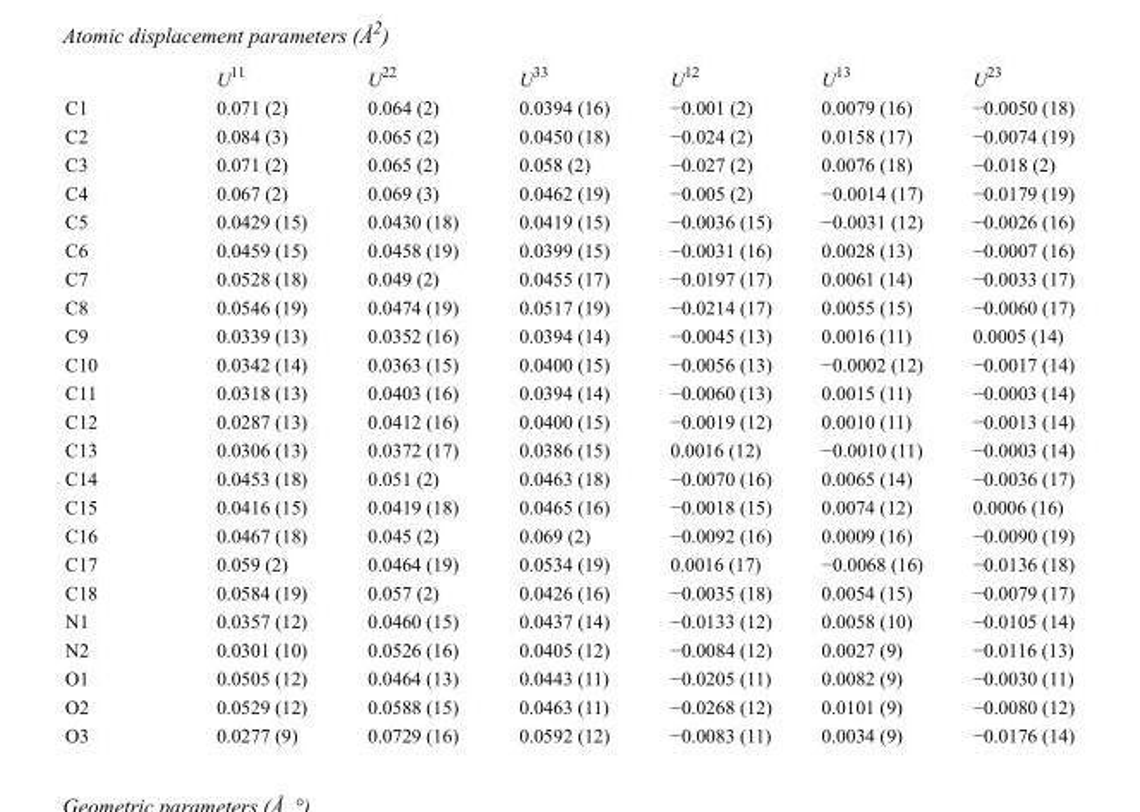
<table><thead><tr><td></td><td>U<sup>11</sup></td><td>U<sup>22</sup></td><td>U<sup>33</sup></td><td>U<sup>12</sup></td><td>U<sup>13</sup></td><td>U<sup>23</sup></td></tr></thead><tbody><tr><td>C1</td><td>0.071 (2)</td><td>0.064 (2)</td><td>0.0394 (16)</td><td>−0.001 (2)</td><td>0.0079 (16)</td><td>−0.0050 (18)</td></tr><tr><td>C2</td><td>0.084 (3)</td><td>0.065 (2)</td><td>0.0450 (18)</td><td>−0.024 (2)</td><td>0.0158 (17)</td><td>−0.0074 (19)</td></tr><tr><td>C3</td><td>0.071 (2)</td><td>0.065 (2)</td><td>0.058 (2)</td><td>−0.027 (2)</td><td>0.0076 (18)</td><td>−0.018 (2)</td></tr><tr><td>C4</td><td>0.067 (2)</td><td>0.069 (3)</td><td>0.0462 (19)</td><td>−0.005 (2)</td><td>−0.0014 (17)</td><td>−0.0179 (19)</td></tr><tr><td>C5</td><td>0.0429 (15)</td><td>0.0430 (18)</td><td>0.0419 (15)</td><td>−0.0036 (15)</td><td>−0.0031 (12)</td><td>−0.0026 (16)</td></tr><tr><td>C6</td><td>0.0459 (15)</td><td>0.0458 (19)</td><td>0.0399 (15)</td><td>−0.0031 (16)</td><td>0.0028 (13)</td><td>−0.0007 (16)</td></tr><tr><td>C7</td><td>0.0528 (18)</td><td>0.049 (2)</td><td>0.0455 (17)</td><td>−0.0197 (17)</td><td>0.0061 (14)</td><td>−0.0033 (17)</td></tr><tr><td>C8</td><td>0.0546 (19)</td><td>0.0474 (19)</td><td>0.0517 (19)</td><td>−0.0214 (17)</td><td>0.0055 (15)</td><td>−0.0060 (17)</td></tr><tr><td>C9</td><td>0.0339 (13)</td><td>0.0352 (16)</td><td>0.0394 (14)</td><td>−0.0045 (13)</td><td>0.0016 (11)</td><td>0.0005 (14)</td></tr><tr><td>C10</td><td>0.0342 (14)</td><td>0.0363 (15)</td><td>0.0400 (15)</td><td>−0.0056 (13)</td><td>−0.0002 (12)</td><td>−0.0017 (14)</td></tr><tr><td>C11</td><td>0.0318 (13)</td><td>0.0403 (16)</td><td>0.0394 (14)</td><td>−0.0060 (13)</td><td>0.0015 (11)</td><td>−0.0003 (14)</td></tr><tr><td>C12</td><td>0.0287 (13)</td><td>0.0412 (16)</td><td>0.0400 (15)</td><td>−0.0019 (12)</td><td>0.0010 (11)</td><td>−0.0013 (14)</td></tr><tr><td>C13</td><td>0.0306 (13)</td><td>0.0372 (17)</td><td>0.0386 (15)</td><td>0.0016 (12)</td><td>−0.0010 (11)</td><td>−0.0003 (14)</td></tr><tr><td>C14</td><td>0.0453 (18)</td><td>0.051 (2)</td><td>0.0463 (18)</td><td>−0.0070 (16)</td><td>0.0065 (14)</td><td>−0.0036 (17)</td></tr><tr><td>C15</td><td>0.0416 (15)</td><td>0.0419 (18)</td><td>0.0465 (16)</td><td>−0.0018 (15)</td><td>0.0074 (12)</td><td>0.0006 (16)</td></tr><tr><td>C16</td><td>0.0467 (18)</td><td>0.045 (2)</td><td>0.069 (2)</td><td>−0.0092 (16)</td><td>0.0009 (16)</td><td>−0.0090 (19)</td></tr><tr><td>C17</td><td>0.059 (2)</td><td>0.0464 (19)</td><td>0.0534 (19)</td><td>0.0016 (17)</td><td>−0.0068 (16)</td><td>−0.0136 (18)</td></tr><tr><td>C18</td><td>0.0584 (19)</td><td>0.057 (2)</td><td>0.0426 (16)</td><td>−0.0035 (18)</td><td>0.0054 (15)</td><td>−0.0079 (17)</td></tr><tr><td>N1</td><td>0.0357 (12)</td><td>0.0460 (15)</td><td>0.0437 (14)</td><td>−0.0133 (12)</td><td>0.0058 (10)</td><td>−0.0105 (14)</td></tr><tr><td>N2</td><td>0.0301 (10)</td><td>0.0526 (16)</td><td>0.0405 (12)</td><td>−0.0084 (12)</td><td>0.0027 (9)</td><td>−0.0116 (13)</td></tr><tr><td>O1</td><td>0.0505 (12)</td><td>0.0464 (13)</td><td>0.0443 (11)</td><td>−0.0205 (11)</td><td>0.0082 (9)</td><td>−0.0030 (11)</td></tr><tr><td>O2</td><td>0.0529 (12)</td><td>0.0588 (15)</td><td>0.0463 (11)</td><td>−0.0268 (12)</td><td>0.0101 (9)</td><td>−0.0080 (12)</td></tr><tr><td>O3</td><td>0.0277 (9)</td><td>0.0729 (16)</td><td>0.0592 (12)</td><td>−0.0083 (11)</td><td>0.0034 (9)</td><td>−0.0176 (14)</td></tr></tbody></table>